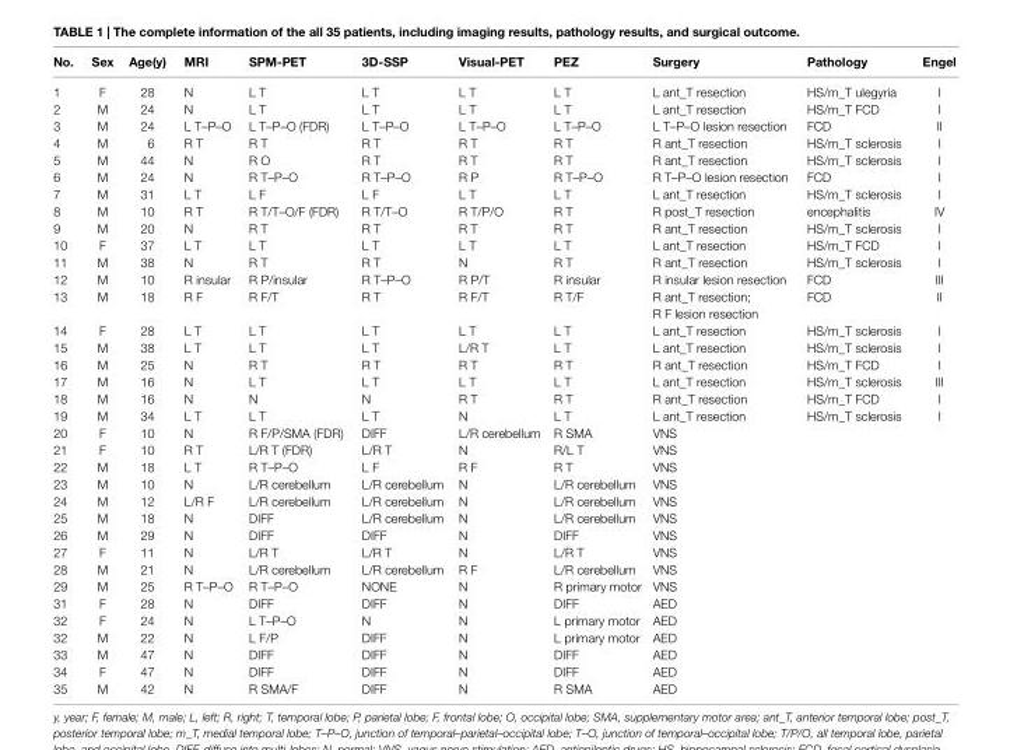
<table><thead><tr><td>no.</td><td>sex</td><td>age(y)</td><td>Mri</td><td>sPM-PeT</td><td>3D-ssP</td><td>Visual-PeT</td><td>PeZ</td><td>surgery</td><td>Pathology</td><td>engel</td></tr></thead><tbody><tr><td>1</td><td>F</td><td>28</td><td>N</td><td>L T</td><td>L T</td><td>L T</td><td>L T</td><td>L ant_T resection</td><td>HS/m_T ulegyria</td><td>I</td></tr><tr><td>2</td><td>M</td><td>24</td><td>N</td><td>L T</td><td>L T</td><td>L T</td><td>L T</td><td>L ant_T resection</td><td>HS/m_T FCD</td><td>I</td></tr><tr><td>3</td><td>M</td><td>24</td><td>L T–P–O</td><td>L T–P–O (FDR)</td><td>L T–P–O</td><td>L T–P–O</td><td>L T–P–O</td><td>L T–P–O lesion resection</td><td>FCD</td><td>II</td></tr><tr><td>4</td><td>M</td><td>6</td><td>R T</td><td>R T</td><td>R T</td><td>R T</td><td>R T</td><td>R ant_T resection</td><td>HS/m_T sclerosis</td><td>I</td></tr><tr><td>5</td><td>M</td><td>44</td><td>N</td><td>R O</td><td>R T</td><td>R T</td><td>R T</td><td>R ant_T resection</td><td>HS/m_T sclerosis</td><td>I</td></tr><tr><td>6</td><td>M</td><td>24</td><td>N</td><td>R T–P–O</td><td>R T–P–O</td><td>R P</td><td>R T–P–O</td><td>R T–P–O lesion resection</td><td>FCD</td><td>I</td></tr><tr><td>7</td><td>M</td><td>31</td><td>L T</td><td>L F</td><td>L F</td><td>L T</td><td>L T</td><td>L ant_T resection</td><td>HS/m_T sclerosis</td><td>I</td></tr><tr><td>8</td><td>M</td><td>10</td><td>R T</td><td>R T/T–O/F (FDR)</td><td>R T/T–O</td><td>R T/P/O</td><td>R T</td><td>R post_T resection</td><td>encephalitis</td><td>IV</td></tr><tr><td>9</td><td>M</td><td>20</td><td>N</td><td>R T</td><td>R T</td><td>R T</td><td>R T</td><td>R ant_T resection</td><td>HS/m_T sclerosis</td><td>I</td></tr><tr><td>10</td><td>F</td><td>37</td><td>L T</td><td>L T</td><td>L T</td><td>L T</td><td>L T</td><td>L ant_T resection</td><td>HS/m_T FCD</td><td>I</td></tr><tr><td>11</td><td>M</td><td>38</td><td>N</td><td>R T</td><td>R T</td><td>N</td><td>R T</td><td>R ant_T resection</td><td>HS/m_T sclerosis</td><td>I</td></tr><tr><td>12</td><td>M</td><td>10</td><td>R insular</td><td>R P/insular</td><td>R T–P–O</td><td>R P/T</td><td>R insular</td><td>R insular lesion resection</td><td>FCD</td><td>III</td></tr><tr><td>13</td><td>M</td><td>18</td><td>R F</td><td>R F/T</td><td>R T</td><td>R F/T</td><td>R T/F</td><td>R ant_T resection; R F lesion resection</td><td>FCD</td><td>II</td></tr><tr><td>14</td><td>F</td><td>28</td><td>L T</td><td>L T</td><td>L T</td><td>L T</td><td>L T</td><td>L ant_T resection</td><td>HS/m_T sclerosis</td><td>I</td></tr><tr><td>15</td><td>M</td><td>38</td><td>L T</td><td>L T</td><td>L T</td><td>L/R T</td><td>L T</td><td>L ant_T resection</td><td>HS/m_T sclerosis</td><td>I</td></tr><tr><td>16</td><td>M</td><td>25</td><td>N</td><td>R T</td><td>R T</td><td>R T</td><td>R T</td><td>R ant_T resection</td><td>HS/m_T FCD</td><td>I</td></tr><tr><td>17</td><td>M</td><td>16</td><td>N</td><td>L T</td><td>L T</td><td>L T</td><td>L T</td><td>L ant_T resection</td><td>HS/m_T sclerosis</td><td>III</td></tr><tr><td>18</td><td>M</td><td>16</td><td>N</td><td>N</td><td>N</td><td>R T</td><td>R T</td><td>R ant_T resection</td><td>HS/m_T FCD</td><td>I</td></tr><tr><td>19</td><td>M</td><td>34</td><td>L T</td><td>L T</td><td>L T</td><td>N</td><td>L T</td><td>L ant_T resection</td><td>HS/m_T sclerosis</td><td>I</td></tr><tr><td>20</td><td>F</td><td>10</td><td>N</td><td>R F/P/SMA (FDR)</td><td>DIFF</td><td>L/R cerebellum</td><td>R SMA</td><td>VNS</td><td></td><td></td></tr><tr><td>21</td><td>F</td><td>10</td><td>R T</td><td>L/R T (FDR)</td><td>L/R T</td><td>N</td><td>R/L T</td><td>VNS</td><td></td><td></td></tr><tr><td>22</td><td>M</td><td>18</td><td>L T</td><td>R T–P–O</td><td>L F</td><td>R F</td><td>R T</td><td>VNS</td><td></td><td></td></tr><tr><td>23</td><td>M</td><td>10</td><td>N</td><td>L/R cerebellum</td><td>L/R cerebellum</td><td>N</td><td>L/R cerebellum</td><td>VNS</td><td></td><td></td></tr><tr><td>24</td><td>M</td><td>12</td><td>L/R F</td><td>L/R cerebellum</td><td>L/R cerebellum</td><td>N</td><td>L/R cerebellum</td><td>VNS</td><td></td><td></td></tr><tr><td>25</td><td>M</td><td>18</td><td>N</td><td>DIFF</td><td>L/R cerebellum</td><td>N</td><td>L/R cerebellum</td><td>VNS</td><td></td><td></td></tr><tr><td>26</td><td>M</td><td>29</td><td>N</td><td>DIFF</td><td>DIFF</td><td>N</td><td>DIFF</td><td>VNS</td><td></td><td></td></tr><tr><td>27</td><td>F</td><td>11</td><td>N</td><td>L/R T</td><td>L/R T</td><td>N</td><td>L/R T</td><td>VNS</td><td></td><td></td></tr><tr><td>28</td><td>M</td><td>21</td><td>N</td><td>L/R cerebellum</td><td>L/R cerebellum</td><td>R F</td><td>L/R cerebellum</td><td>VNS</td><td></td><td></td></tr><tr><td>29</td><td>M</td><td>25</td><td>R T–P–O</td><td>R T–P–O</td><td>NONE</td><td>N</td><td>R primary motor</td><td>VNS</td><td></td><td></td></tr><tr><td>31</td><td>F</td><td>28</td><td>N</td><td>DIFF</td><td>DIFF</td><td>N</td><td>DIFF</td><td>AED</td><td></td><td></td></tr><tr><td>32</td><td>F</td><td>24</td><td>N</td><td>L T–P–O</td><td>N</td><td>N</td><td>L primary motor</td><td>AED</td><td></td><td></td></tr><tr><td>32</td><td>M</td><td>22</td><td>N</td><td>L F/P</td><td>DIFF</td><td>N</td><td>L primary motor</td><td>AED</td><td></td><td></td></tr><tr><td>33</td><td>M</td><td>47</td><td>N</td><td>DIFF</td><td>DIFF</td><td>N</td><td>DIFF</td><td>AED</td><td></td><td></td></tr><tr><td>34</td><td>F</td><td>47</td><td>N</td><td>DIFF</td><td>DIFF</td><td>N</td><td>DIFF</td><td>AED</td><td></td><td></td></tr><tr><td>35</td><td>M</td><td>42</td><td>N</td><td>R SMA/F</td><td>DIFF</td><td>N</td><td>R SMA</td><td>AED</td><td></td><td></td></tr></tbody></table>